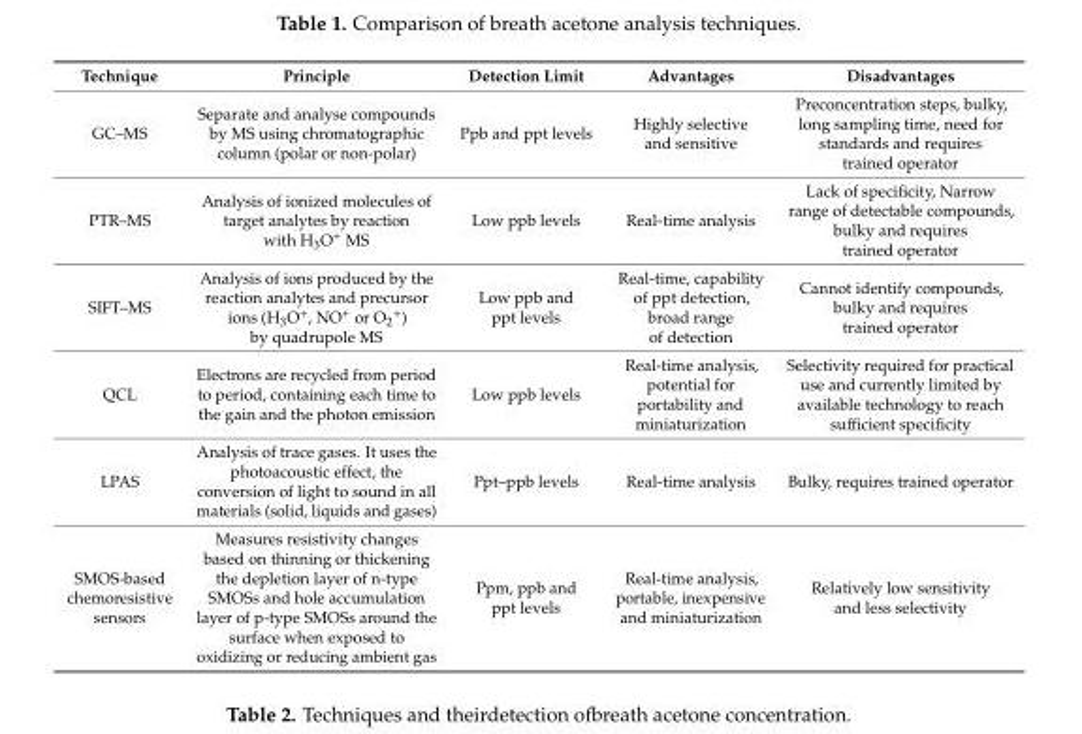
<table><thead><tr><td>Technique</td><td>Principle</td><td>Detection Limit</td><td>Advantages</td><td>Disadvantages</td></tr></thead><tbody><tr><td>GC–MS</td><td>Separate and analyse compounds by MS using chromatographic column (polar or non-polar)</td><td>Ppb and ppt levels</td><td>Highly selective and sensitive</td><td>Preconcentration steps, bulky, long sampling time, need for standards and requires trained operator</td></tr><tr><td>PTR–MS</td><td>Analysis of ionized molecules of target analytes by reaction with H<sub>3</sub>O<sup>+</sup> MS</td><td>Low ppb levels</td><td>Real-time analysis</td><td>Lack of specificity, Narrow range of detectable compounds, bulky and requires trained operator</td></tr><tr><td>SIFT–MS</td><td>Analysis of ions produced by the reaction analytes and precursor ions (H<sub>3</sub>O<sup>+</sup>, NO<sup>+</sup> or O<sub>2</sub><sup>+</sup>) by quadrupole MS</td><td>Low ppb and ppt levels</td><td>Real-time, capability of ppt detection, broad range of detection</td><td>Cannot identify compounds, bulky and requires trained operator</td></tr><tr><td>QCL</td><td>Electrons are recycled from period to period, containing each time to the gain and the photon emission</td><td>Low ppb levels</td><td>Real-time analysis, potential for portability and miniaturization</td><td>Selectivity required for practical use and currently limited by available technology to reach sufficient specificity</td></tr><tr><td>LPAS</td><td>Analysis of trace gases. It uses the photoacoustic effect, the conversion of light to sound in all materials (solid, liquids and gases)</td><td>Ppt–ppb levels</td><td>Real-time analysis</td><td>Bulky, requires trained operator</td></tr><tr><td>SMOS-based chemoresistive sensors</td><td>Measures resistivity changes based on thinning or thickening the depletion layer of n-type SMOSs and hole accumulation layer of p-type SMOSs around the surface when exposed to oxidizing or reducing ambient gas</td><td>Ppm, ppb and ppt levels</td><td>Real-time analysis, portable, inexpensive and miniaturization</td><td>Relatively low sensitivity and less selectivity</td></tr></tbody></table>